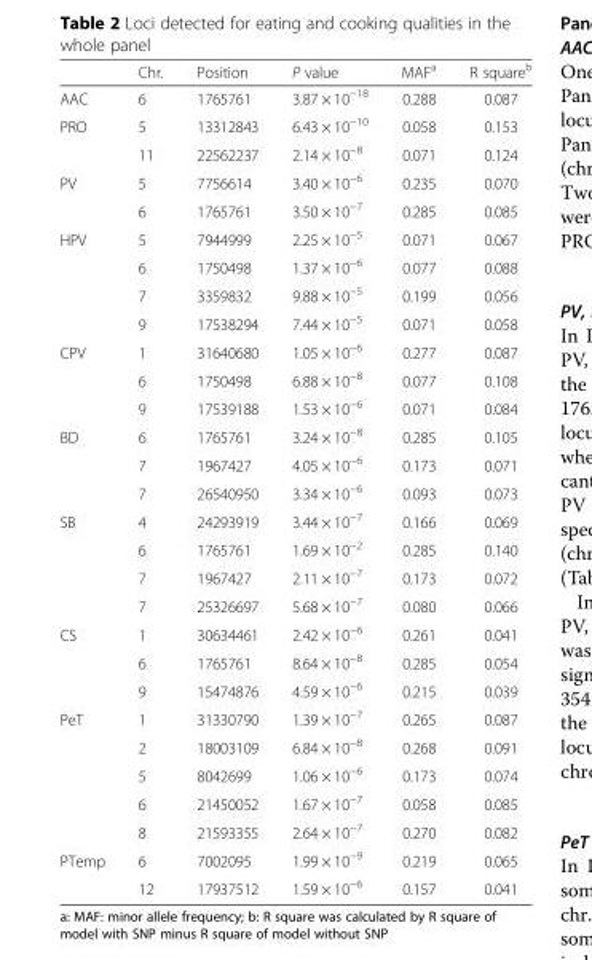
<table><thead><tr><td></td><td>Chr.</td><td>Position</td><td>P value</td><td>MAF<sup>a</sup></td><td>R square<sup>b</sup></td></tr></thead><tbody><tr><td>AAC</td><td>6</td><td>1765761</td><td>3.87 × 10<sup>−18</sup></td><td>0.288</td><td>0.087</td></tr><tr><td rowspan="2">PRO</td><td>5</td><td>13312843</td><td>6.43 × 10<sup>−10</sup></td><td>0.058</td><td>0.153</td></tr><tr><td>11</td><td>22562237</td><td>2.14 × 10<sup>−8</sup></td><td>0.071</td><td>0.124</td></tr><tr><td rowspan="2">PV</td><td>5</td><td>7756614</td><td>3.40 × 10<sup>−6</sup></td><td>0.235</td><td>0.070</td></tr><tr><td>6</td><td>1765761</td><td>3.50 × 10<sup>−7</sup></td><td>0.285</td><td>0.085</td></tr><tr><td rowspan="4">HPV</td><td>5</td><td>7944999</td><td>2.25 × 10<sup>−5</sup></td><td>0.071</td><td>0.067</td></tr><tr><td>6</td><td>1750498</td><td>1.37 × 10<sup>−6</sup></td><td>0.077</td><td>0.088</td></tr><tr><td>7</td><td>3359832</td><td>9.88 × 10<sup>−5</sup></td><td>0.199</td><td>0.056</td></tr><tr><td>9</td><td>17538294</td><td>7.44 × 10<sup>−5</sup></td><td>0.071</td><td>0.058</td></tr><tr><td rowspan="3">CPV</td><td>1</td><td>31640680</td><td>1.05 × 10<sup>−6</sup></td><td>0.277</td><td>0.087</td></tr><tr><td>6</td><td>1750498</td><td>6.88 × 10<sup>−8</sup></td><td>0.077</td><td>0.108</td></tr><tr><td>9</td><td>17539188</td><td>1.53 × 10<sup>−6</sup></td><td>0.071</td><td>0.084</td></tr><tr><td rowspan="3">BD</td><td>6</td><td>1765761</td><td>3.24 × 10<sup>−8</sup></td><td>0.285</td><td>0.105</td></tr><tr><td>7</td><td>1967427</td><td>4.05 × 10<sup>−6</sup></td><td>0.173</td><td>0.071</td></tr><tr><td>7</td><td>26540950</td><td>3.34 × 10<sup>−6</sup></td><td>0.093</td><td>0.073</td></tr><tr><td rowspan="4">SB</td><td>4</td><td>24293919</td><td>3.44 × 10<sup>−7</sup></td><td>0.166</td><td>0.069</td></tr><tr><td>6</td><td>1765761</td><td>1.69 × 10<sup>−2</sup></td><td>0.285</td><td>0.140</td></tr><tr><td>7</td><td>1967427</td><td>2.11 × 10<sup>−7</sup></td><td>0.173</td><td>0.072</td></tr><tr><td>7</td><td>25326697</td><td>5.68 × 10<sup>−7</sup></td><td>0.080</td><td>0.066</td></tr><tr><td rowspan="3">CS</td><td>1</td><td>30634461</td><td>2.42 × 10<sup>−6</sup></td><td>0.261</td><td>0.041</td></tr><tr><td>6</td><td>1765761</td><td>8.64 × 10<sup>−8</sup></td><td>0.285</td><td>0.054</td></tr><tr><td>9</td><td>15474876</td><td>4.59 × 10<sup>−6</sup></td><td>0.215</td><td>0.039</td></tr><tr><td rowspan="5">PeT</td><td>1</td><td>31330790</td><td>1.39 × 10<sup>−7</sup></td><td>0.265</td><td>0.087</td></tr><tr><td>2</td><td>18003109</td><td>6.84 × 10<sup>−8</sup></td><td>0.268</td><td>0.091</td></tr><tr><td>5</td><td>8042699</td><td>1.06 × 10<sup>−6</sup></td><td>0.173</td><td>0.074</td></tr><tr><td>6</td><td>21450052</td><td>1.67 × 10<sup>−7</sup></td><td>0.058</td><td>0.085</td></tr><tr><td>8</td><td>21593355</td><td>2.64 × 10<sup>−7</sup></td><td>0.270</td><td>0.082</td></tr><tr><td rowspan="2">PTemp</td><td>6</td><td>7002095</td><td>1.99 × 10<sup>−9</sup></td><td>0.219</td><td>0.065</td></tr><tr><td>12</td><td>17937512</td><td>1.59 × 10<sup>−6</sup></td><td>0.157</td><td>0.041</td></tr></tbody></table>